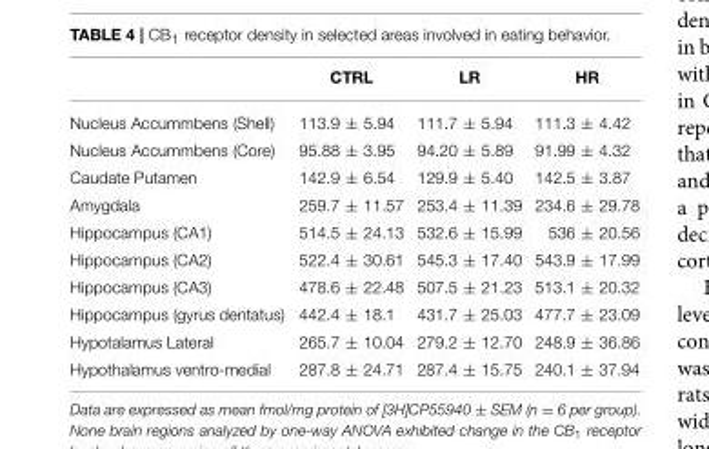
<table><thead><tr><td></td><td>CTRL</td><td>LR</td><td>HR</td></tr></thead><tbody><tr><td>Nucleus Accummbens (Shell)</td><td>113.9 ± 5.94</td><td>111.7 ± 5.94</td><td>111.3 ± 4.42</td></tr><tr><td>Nucleus Accummbens (Core)</td><td>95.88 ± 3.95</td><td>94.20 ± 5.89</td><td>91.99 ± 4.32</td></tr><tr><td>Caudate Putamen</td><td>142.9 ± 6.54</td><td>129.9 ± 5.40</td><td>142.5 ± 3.87</td></tr><tr><td>Amygdala</td><td>259.7 ± 11.57</td><td>253.4 ± 11.39</td><td>234.6 ± 29.78</td></tr><tr><td>Hippocampus (CA1)</td><td>514.5 ± 24.13</td><td>532.6 ± 15.99</td><td>536 ± 20.56</td></tr><tr><td>Hippocampus (CA2)</td><td>522.4 ± 30.61</td><td>545.3 ± 17.40</td><td>543.9 ± 17.99</td></tr><tr><td>Hippocampus (CA3)</td><td>478.6 ± 22.48</td><td>507.5 ± 21.23</td><td>513.1 ± 20.32</td></tr><tr><td>Hippocampus (gyrus dentatus)</td><td>442.4 ± 18.1</td><td>431.7 ± 25.03</td><td>477.7 ± 23.09</td></tr><tr><td>Hypotalamus Lateral</td><td>265.7 ± 10.04</td><td>279.2 ± 12.70</td><td>248.9 ± 36.86</td></tr><tr><td>Hypothalamus ventro-medial</td><td>287.8 ± 24.71</td><td>287.4 ± 15.75</td><td>240.1 ± 37.94</td></tr></tbody></table>